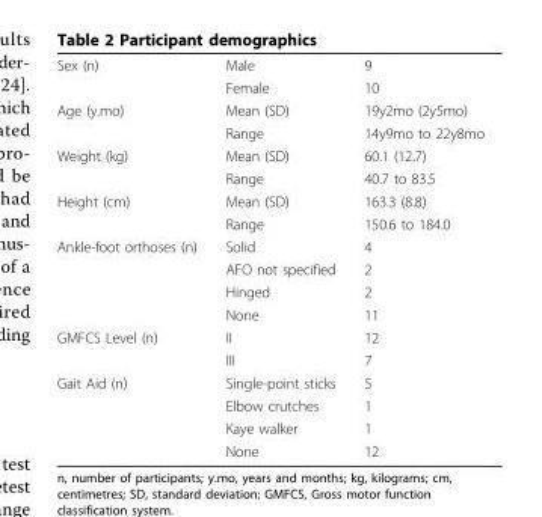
<table><tbody><tr><td rowspan="2">Sex (n)</td><td>Male</td><td>9</td></tr><tr><td>Female</td><td>10</td></tr><tr><td rowspan="2">Age (y.mo)</td><td>Mean (SD)</td><td>19y2mo (2y5mo)</td></tr><tr><td>Range</td><td>14y9mo to 22y8mo</td></tr><tr><td rowspan="2">Weight (kg)</td><td>Mean (SD)</td><td>60.1 (12.7)</td></tr><tr><td>Range</td><td>40.7 to 83.5</td></tr><tr><td rowspan="2">Height (cm)</td><td>Mean (SD)</td><td>163.3 (8.8)</td></tr><tr><td>Range</td><td>150.6 to 184.0</td></tr><tr><td rowspan="4">Ankle-foot orthoses (n)</td><td>Solid</td><td>4</td></tr><tr><td>AFO not specified</td><td>2</td></tr><tr><td>Hinged</td><td>2</td></tr><tr><td>None</td><td>11</td></tr><tr><td rowspan="2">GMFCS Level (n)</td><td>II</td><td>12</td></tr><tr><td>III</td><td>7</td></tr><tr><td rowspan="4">Gait Aid (n)</td><td>Single-point sticks</td><td>5</td></tr><tr><td>Elbow crutches</td><td>1</td></tr><tr><td>Kaye walker</td><td>1</td></tr><tr><td>None</td><td>12</td></tr></tbody></table>